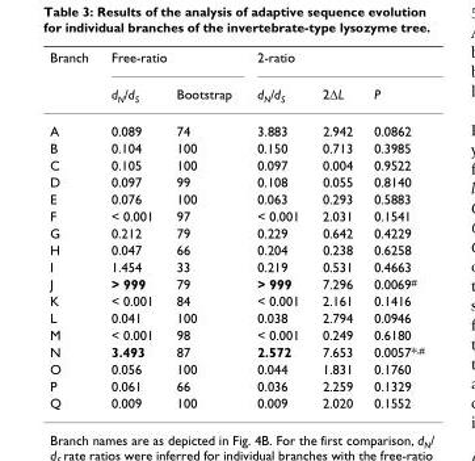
<table><thead><tr><td rowspan="2">Branch</td><td colspan="2">Free-ratio</td><td colspan="3">2-ratio</td></tr><tr><td>d<sub>N</sub>/d<sub>S</sub></td><td>Bootstrap</td><td>d<sub>N</sub>/d<sub>S</sub></td><td>2ΔL</td><td>P</td></tr></thead><tbody><tr><td>A</td><td>0.089</td><td>74</td><td>3.883</td><td>2.942</td><td>0.0862</td></tr><tr><td>B</td><td>0.104</td><td>100</td><td>0.150</td><td>0.713</td><td>0.3985</td></tr><tr><td>C</td><td>0.105</td><td>100</td><td>0.097</td><td>0.004</td><td>0.9522</td></tr><tr><td>D</td><td>0.097</td><td>99</td><td>0.108</td><td>0.055</td><td>0.8140</td></tr><tr><td>E</td><td>0.076</td><td>100</td><td>0.063</td><td>0.293</td><td>0.5883</td></tr><tr><td>F</td><td>&lt; 0.001</td><td>97</td><td>&lt; 0.001</td><td>2.031</td><td>0.1541</td></tr><tr><td>G</td><td>0.212</td><td>79</td><td>0.229</td><td>0.642</td><td>0.4229</td></tr><tr><td>H</td><td>0.047</td><td>66</td><td>0.204</td><td>0.238</td><td>0.6258</td></tr><tr><td>I</td><td>1.454</td><td>33</td><td>0.219</td><td>0.531</td><td>0.4663</td></tr><tr><td>J</td><td>&gt; 999</td><td>79</td><td>&gt; 999</td><td>7.296</td><td>0.0069<sup>#</sup></td></tr><tr><td>K</td><td>&lt; 0.001</td><td>84</td><td>&lt; 0.001</td><td>2.161</td><td>0.1416</td></tr><tr><td>L</td><td>0.041</td><td>100</td><td>0.038</td><td>2.794</td><td>0.0946</td></tr><tr><td>M</td><td>&lt; 0.001</td><td>98</td><td>&lt; 0.001</td><td>0.249</td><td>0.6180</td></tr><tr><td>N</td><td>3.493</td><td>87</td><td>2.572</td><td>7.653</td><td>0.0057*<sup>,#</sup></td></tr><tr><td>O</td><td>0.056</td><td>100</td><td>0.044</td><td>1.831</td><td>0.1760</td></tr><tr><td>P</td><td>0.061</td><td>66</td><td>0.036</td><td>2.259</td><td>0.1329</td></tr><tr><td>Q</td><td>0.009</td><td>100</td><td>0.009</td><td>2.020</td><td>0.1552</td></tr></tbody></table>